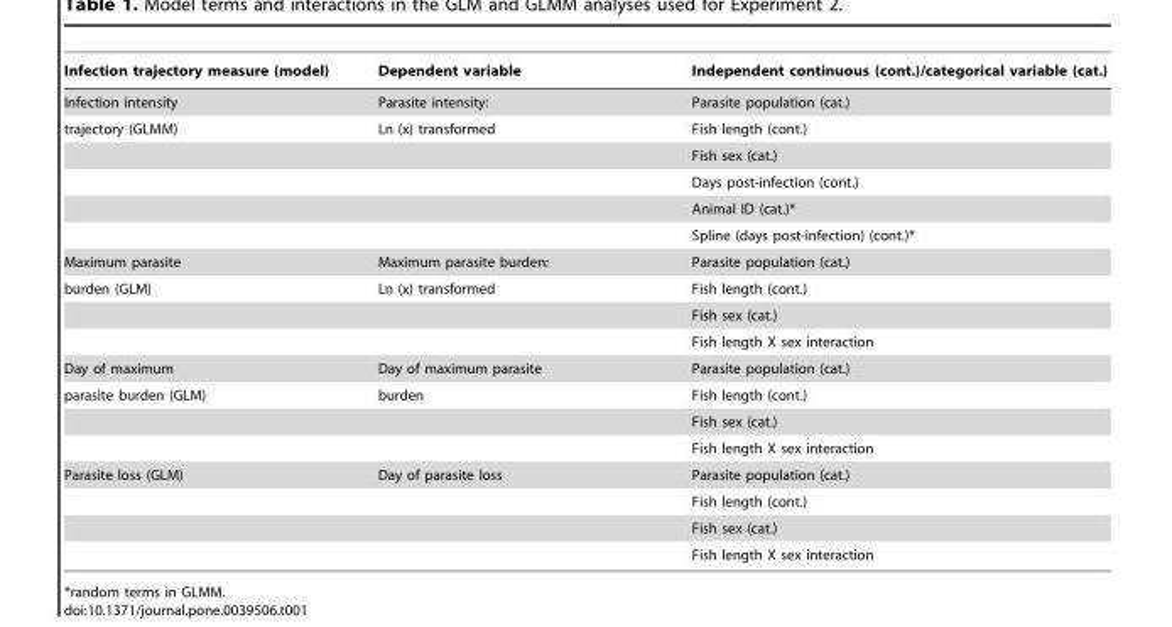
<table><thead><tr><td>Infection trajectory measure (model)</td><td>Dependent variable</td><td>Independent continuous (cont.)/categorical variable (cat.)</td></tr></thead><tbody><tr><td>Infection intensity</td><td>Parasite intensity:</td><td>Parasite population (cat.)</td></tr><tr><td rowspan="5">trajectory (GLMM)</td><td>Ln (x) transformed</td><td>Fish length (cont.)</td></tr><tr><td></td><td>Fish sex (cat.)</td></tr><tr><td></td><td>Days post-infection (cont.)</td></tr><tr><td></td><td>Animal ID (cat.)*</td></tr><tr><td></td><td>Spline (days post-infection) (cont.)*</td></tr><tr><td>Maximum parasite</td><td>Maximum parasite burden:</td><td>Parasite population (cat.)</td></tr><tr><td rowspan="3">burden (GLM)</td><td>Ln (x) transformed</td><td>Fish length (cont.)</td></tr><tr><td></td><td>Fish sex (cat.)</td></tr><tr><td></td><td>Fish length X sex interaction</td></tr><tr><td>Day of maximum</td><td>Day of maximum parasite</td><td>Parasite population (cat.)</td></tr><tr><td rowspan="3">parasite burden (GLM)</td><td>burden</td><td>Fish length (cont.)</td></tr><tr><td></td><td>Fish sex (cat.)</td></tr><tr><td></td><td>Fish length X sex interaction</td></tr><tr><td rowspan="4">Parasite loss (GLM)</td><td>Day of parasite loss</td><td>Parasite population (cat.)</td></tr><tr><td></td><td>Fish length (cont.)</td></tr><tr><td></td><td>Fish sex (cat.)</td></tr><tr><td></td><td>Fish length X sex interaction</td></tr></tbody></table>